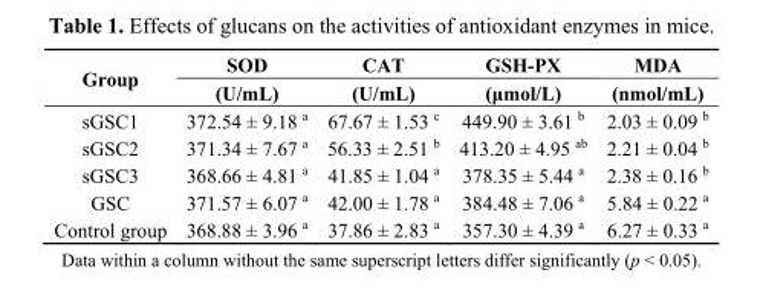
<table><thead><tr><td rowspan="2">Group</td><td rowspan="2">SOD (U/mL)</td><td rowspan="2">CAT (U/mL)</td><td rowspan="2">GSH-PX (μmol/L)</td><td rowspan="2">MDA (nmol/mL)</td></tr><tr></tr></thead><tbody><tr><td>sGSC1</td><td>372.54 ± 9.18 <sup>a</sup></td><td>67.67 ± 1.53 <sup>c</sup></td><td>449.90 ± 3.61 <sup>b</sup></td><td>2.03 ± 0.09 <sup>b</sup></td></tr><tr><td>sGSC2</td><td>371.34 ± 7.67 <sup>a</sup></td><td>56.33 ± 2.51 <sup>b</sup></td><td>413.20 ± 4.95 <sup>ab</sup></td><td>2.21 ± 0.04 <sup>b</sup></td></tr><tr><td>sGSC3</td><td>368.66 ± 4.81 <sup>a</sup></td><td>41.85 ± 1.04 <sup>a</sup></td><td>378.35 ± 5.44 <sup>a</sup></td><td>2.38 ± 0.16 <sup>b</sup></td></tr><tr><td>GSC</td><td>371.57 ± 6.07 <sup>a</sup></td><td>42.00 ± 1.78 <sup>a</sup></td><td>384.48 ± 7.06 <sup>a</sup></td><td>5.84 ± 0.22 <sup>a</sup></td></tr><tr><td>Control group</td><td>368.88 ± 3.96 <sup>a</sup></td><td>37.86 ± 2.83 <sup>a</sup></td><td>357.30 ± 4.39 <sup>a</sup></td><td>6.27 ± 0.33 <sup>a</sup></td></tr></tbody></table>